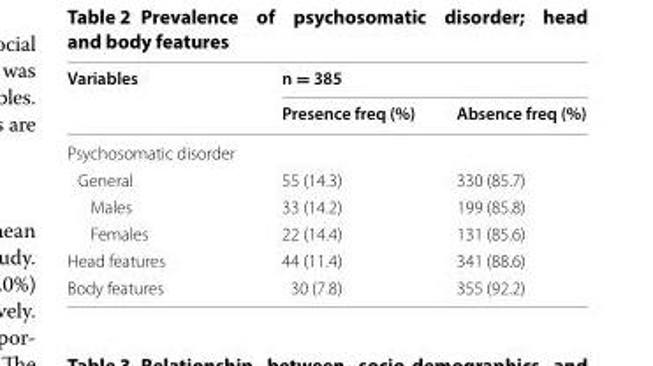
<table><thead><tr><td rowspan="2">Variables</td><td colspan="2">n = 385</td></tr><tr><td>Presence freq (%)</td><td>Absence freq (%)</td></tr></thead><tbody><tr><td colspan="3">Psychosomatic disorder</td></tr><tr><td>General</td><td>55 (14.3)</td><td>330 (85.7)</td></tr><tr><td>Males</td><td>33 (14.2)</td><td>199 (85.8)</td></tr><tr><td>Females</td><td>22 (14.4)</td><td>131 (85.6)</td></tr><tr><td>Head features</td><td>44 (11.4)</td><td>341 (88.6)</td></tr><tr><td>Body features</td><td>30 (7.8)</td><td>355 (92.2)</td></tr></tbody></table>